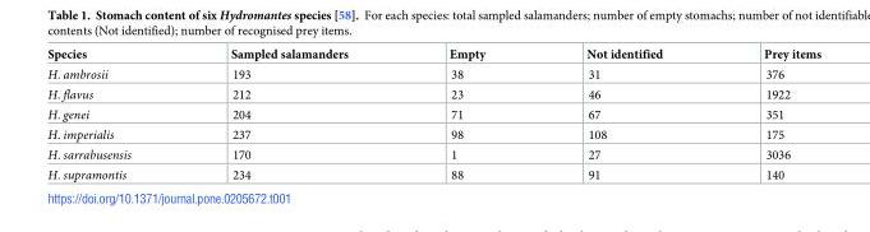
<table><thead><tr><td>Species</td><td>Sampled salamanders</td><td>Empty</td><td>Not identified</td><td>Prey items</td></tr></thead><tbody><tr><td>H. ambrosii</td><td>193</td><td>38</td><td>31</td><td>376</td></tr><tr><td>H. flavus</td><td>212</td><td>23</td><td>46</td><td>1922</td></tr><tr><td>H. genei</td><td>204</td><td>71</td><td>67</td><td>351</td></tr><tr><td>H. imperialis</td><td>237</td><td>98</td><td>108</td><td>175</td></tr><tr><td>H. sarrabusensis</td><td>170</td><td>1</td><td>27</td><td>3036</td></tr><tr><td>H. supramontis</td><td>234</td><td>88</td><td>91</td><td>140</td></tr></tbody></table>